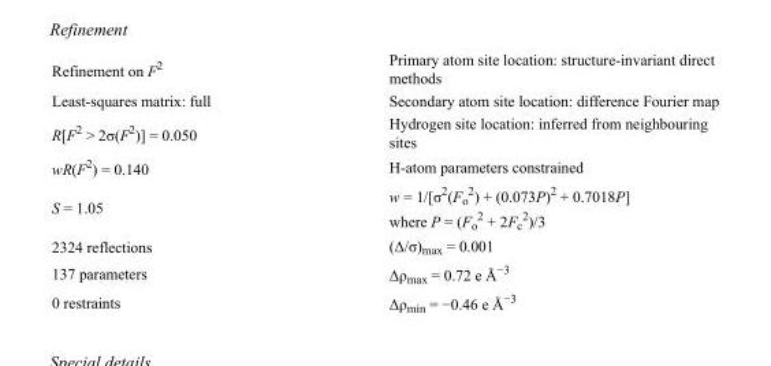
<table><tbody><tr><td>Refinement on F<sup>2</sup></td><td>Primary atom site location: structure-invariant direct methods</td></tr><tr><td>Least-squares matrix: full</td><td>Secondary atom site location: difference Fourier map</td></tr><tr><td>R[F<sup>2</sup> &gt; 2σ(F<sup>2</sup>)] = 0.050</td><td>Hydrogen site location: inferred from neighbouring sites</td></tr><tr><td>wR(F<sup>2</sup>) = 0.140</td><td>H-atom parameters constrained</td></tr><tr><td>S = 1.05</td><td>w = 1/[σ<sup>2</sup>(F<sub>o</sub> <sup>2</sup>) + (0.073P)<sup>2</sup> + 0.7018P] where P = (F<sub>o</sub> <sup>2</sup> + 2F<sub>c</sub> <sup>2</sup>)/3</td></tr><tr><td>2324 reflections</td><td>(Δ/σ)<sub>max</sub> = 0.001</td></tr><tr><td>137 parameters</td><td>Δρ<sub>max</sub> = 0.72 e Å<sup>−3</sup></td></tr><tr><td>0 restraints</td><td>Δρ<sub>min</sub> = −0.46 e Å<sup>−3</sup></td></tr></tbody></table>